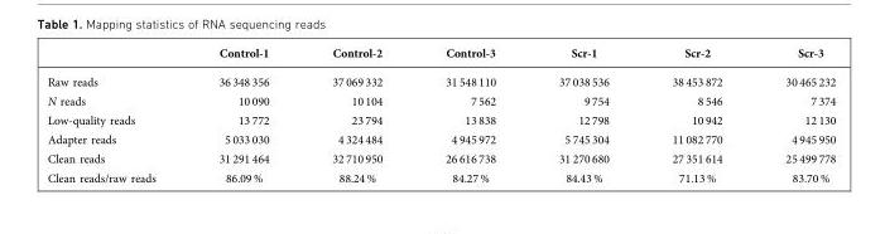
<table><thead><tr><td></td><td>Control-1</td><td>Control-2</td><td>Control-3</td><td>Scr-1</td><td>Scr-2</td><td>Scr-3</td></tr></thead><tbody><tr><td>Raw reads</td><td>36 348 356</td><td>37 069 332</td><td>31 548 110</td><td>37 038 536</td><td>38 453 872</td><td>30 465 232</td></tr><tr><td>N reads</td><td>10 090</td><td>10 104</td><td>7 562</td><td>9 754</td><td>8 546</td><td>7 374</td></tr><tr><td>Low-quality reads</td><td>13 772</td><td>23 794</td><td>13 838</td><td>12 798</td><td>10 942</td><td>12 130</td></tr><tr><td>Adapter reads</td><td>5 033 030</td><td>4 324 484</td><td>4 945 972</td><td>5 745 304</td><td>11 082 770</td><td>4 945 950</td></tr><tr><td>Clean reads</td><td>31 291 464</td><td>32 710 950</td><td>26 616 738</td><td>31 270 680</td><td>27 351 614</td><td>25 499 778</td></tr><tr><td>Clean reads/raw reads</td><td>86.09 %</td><td>88.24 %</td><td>84.27 %</td><td>84.43 %</td><td>71.13 %</td><td>83.70 %</td></tr></tbody></table>